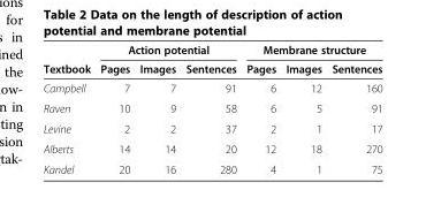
<table><thead><tr><td rowspan="2">Textbook</td><td colspan="3">Action potential</td><td colspan="3">Membrane structure</td></tr><tr><td>Pages</td><td>Images</td><td>Sentences</td><td>Pages</td><td>Images</td><td>Sentences</td></tr></thead><tbody><tr><td>Campbell</td><td>7</td><td>7</td><td>91</td><td>6</td><td>12</td><td>160</td></tr><tr><td>Raven</td><td>10</td><td>9</td><td>58</td><td>6</td><td>5</td><td>91</td></tr><tr><td>Levine</td><td>2</td><td>2</td><td>37</td><td>2</td><td>1</td><td>17</td></tr><tr><td>Alberts</td><td>14</td><td>14</td><td>20</td><td>12</td><td>18</td><td>270</td></tr><tr><td>Kandel</td><td>20</td><td>16</td><td>280</td><td>4</td><td>1</td><td>75</td></tr></tbody></table>